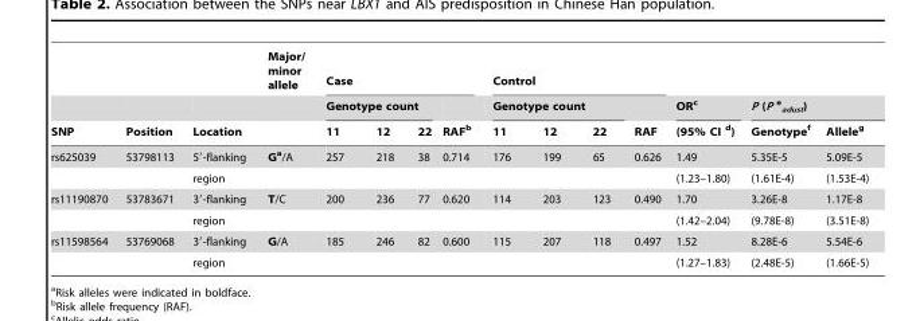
<table><thead><tr><td rowspan="3">SNP</td><td rowspan="3">Position</td><td rowspan="3">Location</td><td rowspan="3">Major/ minor allele</td><td colspan="4">Case</td><td colspan="4">Control</td><td rowspan="3">OR<sup>c</sup> (95% CI d)</td><td></td><td></td></tr><tr><td colspan="3">Genotype count</td><td rowspan="2">RAF<sup>b</sup></td><td colspan="3">Genotype count</td><td rowspan="2">RAF</td><td colspan="2">P (P e <sub>adust</sub>)</td></tr><tr><td>11</td><td>12</td><td>22</td><td>11</td><td>12</td><td>22</td><td>Genotype<sup>f</sup></td><td>Allele<sup>g</sup></td></tr></thead><tbody><tr><td rowspan="2">rs625039</td><td>53798113</td><td>5′-flanking</td><td>Ga/A</td><td>257</td><td>218</td><td>38</td><td>0.714</td><td>176</td><td>199</td><td>65</td><td>0.626</td><td>1.49</td><td>5.35E-5</td><td>5.09E-5</td></tr><tr><td></td><td>region</td><td></td><td></td><td></td><td></td><td></td><td></td><td></td><td></td><td></td><td>(1.23–1.80)</td><td>(1.61E-4)</td><td>(1.53E-4)</td></tr><tr><td rowspan="2">rs11190870</td><td>53783671</td><td>3′-flanking</td><td>T/C</td><td>200</td><td>236</td><td>77</td><td>0.620</td><td>114</td><td>203</td><td>123</td><td>0.490</td><td>1.70</td><td>3.26E-8</td><td>1.17E-8</td></tr><tr><td></td><td>region</td><td></td><td></td><td></td><td></td><td></td><td></td><td></td><td></td><td></td><td>(1.42–2.04)</td><td>(9.78E-8)</td><td>(3.51E-8)</td></tr><tr><td rowspan="2">rs11598564</td><td>53769068</td><td>3′-flanking</td><td>G/A</td><td>185</td><td>246</td><td>82</td><td>0.600</td><td>115</td><td>207</td><td>118</td><td>0.497</td><td>1.52</td><td>8.28E-6</td><td>5.54E-6</td></tr><tr><td></td><td>region</td><td></td><td></td><td></td><td></td><td></td><td></td><td></td><td></td><td></td><td>(1.27–1.83)</td><td>(2.48E-5)</td><td>(1.66E-5)</td></tr></tbody></table>